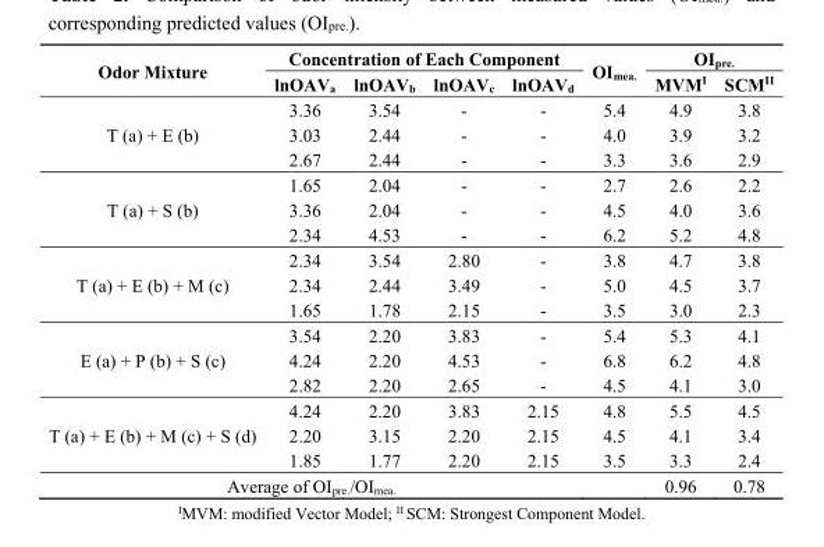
<table><thead><tr><td rowspan="2">Odor Mixture</td><td colspan="4">Concentration of Each Component</td><td rowspan="2">OI<sub>mea.</sub></td><td colspan="2">OI<sub>pre.</sub></td></tr><tr><td>lnOAV<sub>a</sub></td><td>lnOAV<sub>b</sub></td><td>lnOAV<sub>c</sub></td><td>lnOAV<sub>d</sub></td><td>MVM<sup>I</sup></td><td>SCM<sup>II</sup></td></tr></thead><tbody><tr><td rowspan="3">T (a) + E (b)</td><td>3.36</td><td>3.54</td><td>-</td><td>-</td><td>5.4</td><td>4.9</td><td>3.8</td></tr><tr><td>3.03</td><td>2.44</td><td>-</td><td>-</td><td>4.0</td><td>3.9</td><td>3.2</td></tr><tr><td>2.67</td><td>2.44</td><td>-</td><td>-</td><td>3.3</td><td>3.6</td><td>2.9</td></tr><tr><td rowspan="3">T (a) + S (b)</td><td>1.65</td><td>2.04</td><td>-</td><td>-</td><td>2.7</td><td>2.6</td><td>2.2</td></tr><tr><td>3.36</td><td>2.04</td><td>-</td><td>-</td><td>4.5</td><td>4.0</td><td>3.6</td></tr><tr><td>2.34</td><td>4.53</td><td>-</td><td>-</td><td>6.2</td><td>5.2</td><td>4.8</td></tr><tr><td rowspan="3">T (a) + E (b) + M (c)</td><td>2.34</td><td>3.54</td><td>2.80</td><td>-</td><td>3.8</td><td>4.7</td><td>3.8</td></tr><tr><td>2.34</td><td>2.44</td><td>3.49</td><td>-</td><td>5.0</td><td>4.5</td><td>3.7</td></tr><tr><td>1.65</td><td>1.78</td><td>2.15</td><td>-</td><td>3.5</td><td>3.0</td><td>2.3</td></tr><tr><td rowspan="3">E (a) + P (b) + S (c)</td><td>3.54</td><td>2.20</td><td>3.83</td><td>-</td><td>5.4</td><td>5.3</td><td>4.1</td></tr><tr><td>4.24</td><td>2.20</td><td>4.53</td><td>-</td><td>6.8</td><td>6.2</td><td>4.8</td></tr><tr><td>2.82</td><td>2.20</td><td>2.65</td><td>-</td><td>4.5</td><td>4.1</td><td>3.0</td></tr><tr><td rowspan="3">T (a) + E (b) + M (c) + S (d)</td><td>4.24</td><td>2.20</td><td>3.83</td><td>2.15</td><td>4.8</td><td>5.5</td><td>4.5</td></tr><tr><td>2.20</td><td>3.15</td><td>2.20</td><td>2.15</td><td>4.5</td><td>4.1</td><td>3.4</td></tr><tr><td>1.85</td><td>1.77</td><td>2.20</td><td>2.15</td><td>3.5</td><td>3.3</td><td>2.4</td></tr><tr><td colspan="5">Average of OI<sub>pre.</sub>/OI<sub>mea.</sub></td><td></td><td>0.96</td><td>0.78</td></tr></tbody></table>